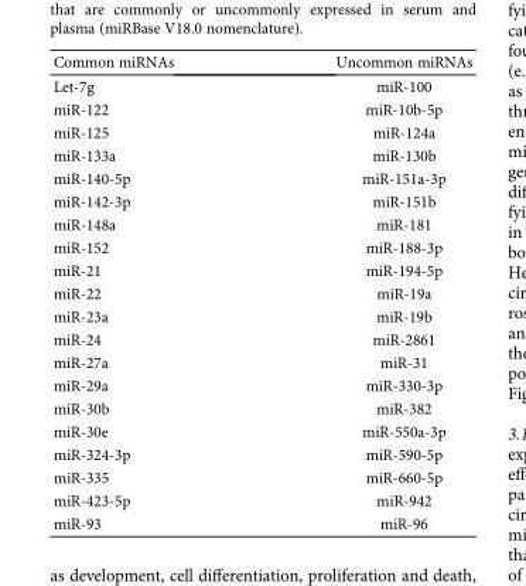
<table><thead><tr><td>Common miRNAs</td><td>Uncommon miRNAs</td></tr></thead><tbody><tr><td>Let-7g</td><td>miR-100</td></tr><tr><td>miR-122</td><td>miR-10b-5p</td></tr><tr><td>miR-125</td><td>miR-124a</td></tr><tr><td>miR-133a</td><td>miR-130b</td></tr><tr><td>miR-140-5p</td><td>miR-151a-3p</td></tr><tr><td>miR-142-3p</td><td>miR-151b</td></tr><tr><td>miR-148a</td><td>miR-181</td></tr><tr><td>miR-152</td><td>miR-188-3p</td></tr><tr><td>miR-21</td><td>miR-194-5p</td></tr><tr><td>miR-22</td><td>miR-19a</td></tr><tr><td>miR-23a</td><td>miR-19b</td></tr><tr><td>miR-24</td><td>miR-2861</td></tr><tr><td>miR-27a</td><td>miR-31</td></tr><tr><td>miR-29a</td><td>miR-330-3p</td></tr><tr><td>miR-30b</td><td>miR-382</td></tr><tr><td>miR-30e</td><td>miR-550a-3p</td></tr><tr><td>miR-324-3p</td><td>miR-590-5p</td></tr><tr><td>miR-335</td><td>miR-660-5p</td></tr><tr><td>miR-423-5p</td><td>miR-942</td></tr><tr><td>miR-93</td><td>miR-96</td></tr></tbody></table>